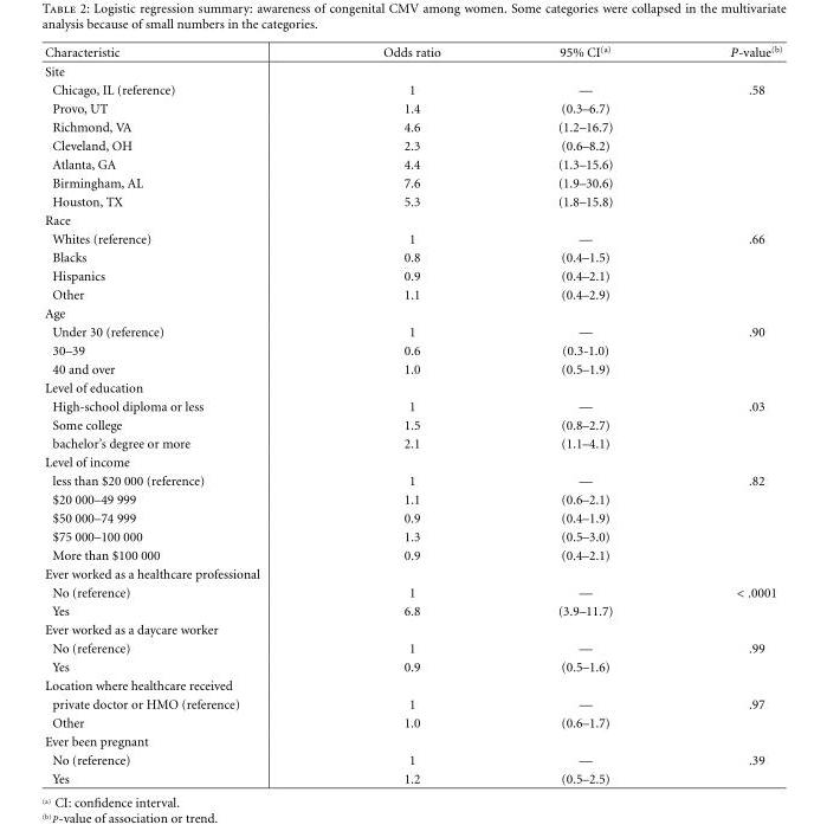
<table><tbody><tr><td>Characteristic</td><td>Odds ratio</td><td>95% CI<sup>(a)</sup></td><td>P-value<sup>(b)</sup></td></tr><tr><td colspan="4">Site</td></tr><tr><td>Chicago, IL (reference)</td><td>1</td><td>—</td><td>.58</td></tr><tr><td>Provo, UT</td><td>1.4</td><td>(0.3–6.7)</td><td></td></tr><tr><td>Richmond, VA</td><td>4.6</td><td>(1.2–16.7)</td><td></td></tr><tr><td>Cleveland, OH</td><td>2.3</td><td>(0.6–8.2)</td><td></td></tr><tr><td>Atlanta, GA</td><td>4.4</td><td>(1.3–15.6)</td><td></td></tr><tr><td>Birmingham, AL</td><td>7.6</td><td>(1.9–30.6)</td><td></td></tr><tr><td>Houston, TX</td><td>5.3</td><td>(1.8–15.8)</td><td></td></tr><tr><td colspan="4">Race</td></tr><tr><td>Whites (reference)</td><td>1</td><td>—</td><td>.66</td></tr><tr><td>Blacks</td><td>0.8</td><td>(0.4–1.5)</td><td></td></tr><tr><td>Hispanics</td><td>0.9</td><td>(0.4–2.1)</td><td></td></tr><tr><td>Other</td><td>1.1</td><td>(0.4–2.9)</td><td></td></tr><tr><td colspan="4">Age</td></tr><tr><td>Under 30 (reference)</td><td>1</td><td>—</td><td>.90</td></tr><tr><td>30–39</td><td>0.6</td><td>(0.3-1.0)</td><td></td></tr><tr><td>40 and over</td><td>1.0</td><td>(0.5–1.9)</td><td></td></tr><tr><td colspan="4">Level of education</td></tr><tr><td>High-school diploma or less</td><td>1</td><td>—</td><td>.03</td></tr><tr><td>Some college</td><td>1.5</td><td>(0.8–2.7)</td><td></td></tr><tr><td>bachelor’s degree or more</td><td>2.1</td><td>(1.1–4.1)</td><td></td></tr><tr><td colspan="4">Level of income</td></tr><tr><td>less than $20 000 (reference)</td><td>1</td><td>—</td><td>.82</td></tr><tr><td>$20 000–49 999</td><td>1.1</td><td>(0.6–2.1)</td><td></td></tr><tr><td>$50 000–74 999</td><td>0.9</td><td>(0.4–1.9)</td><td></td></tr><tr><td>$75 000–100 000</td><td>1.3</td><td>(0.5–3.0)</td><td></td></tr><tr><td>More than $100 000</td><td>0.9</td><td>(0.4–2.1)</td><td></td></tr><tr><td colspan="4">Ever worked as a healthcare professional</td></tr><tr><td>No (reference)</td><td>1</td><td>—</td><td>&lt; .0001</td></tr><tr><td>Yes</td><td>6.8</td><td>(3.9–11.7)</td><td></td></tr><tr><td colspan="4">Ever worked as a daycare worker</td></tr><tr><td>No (reference)</td><td>1</td><td>—</td><td>.99</td></tr><tr><td>Yes</td><td>0.9</td><td>(0.5–1.6)</td><td></td></tr><tr><td colspan="4">Location where healthcare received</td></tr><tr><td>private doctor or HMO (reference)</td><td>1</td><td>—</td><td>.97</td></tr><tr><td>Other</td><td>1.0</td><td>(0.6–1.7)</td><td></td></tr><tr><td colspan="4">Ever been pregnant</td></tr><tr><td>No (reference)</td><td>1</td><td>—</td><td>.39</td></tr><tr><td>Yes</td><td>1.2</td><td>(0.5–2.5)</td><td></td></tr></tbody></table>